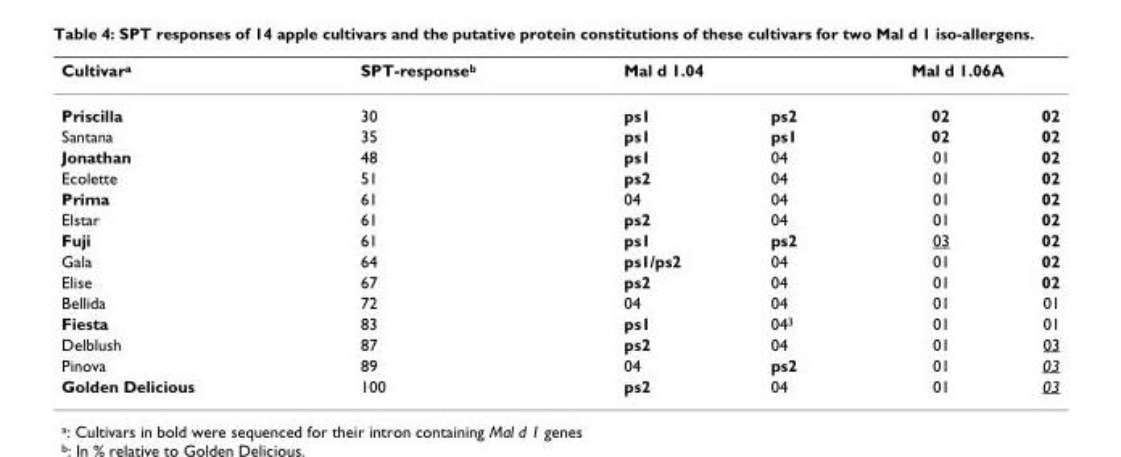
<table><thead><tr><td rowspan="2">Cultivar<sup>a</sup> Priscilla</td><td rowspan="2">SPT-response<sup>b</sup> 30</td><td colspan="2">Mal d 1.04</td><td colspan="2">Mal d 1.06A</td></tr><tr><td>ps1</td><td>ps2</td><td>02</td><td>02</td></tr></thead><tbody><tr><td>Santana</td><td>35</td><td>ps1</td><td>ps1</td><td>02</td><td>02</td></tr><tr><td>Jonathan</td><td>48</td><td>ps1</td><td>04</td><td>01</td><td>02</td></tr><tr><td>Ecolette</td><td>51</td><td>ps2</td><td>04</td><td>01</td><td>02</td></tr><tr><td>Prima</td><td>61</td><td>04</td><td>04</td><td>01</td><td>02</td></tr><tr><td>Elstar</td><td>61</td><td>ps2</td><td>04</td><td>01</td><td>02</td></tr><tr><td>Fuji</td><td>61</td><td>ps1</td><td>ps2</td><td>03</td><td>02</td></tr><tr><td>Gala</td><td>64</td><td>ps1/ps2</td><td>04</td><td>01</td><td>02</td></tr><tr><td>Elise</td><td>67</td><td>ps2</td><td>04</td><td>01</td><td>02</td></tr><tr><td>Bellida</td><td>72</td><td>04</td><td>04</td><td>01</td><td>01</td></tr><tr><td>Fiesta</td><td>83</td><td>ps1</td><td>04<sup>3</sup></td><td>01</td><td>01</td></tr><tr><td>Delblush</td><td>87</td><td>ps2</td><td>04</td><td>01</td><td>03</td></tr><tr><td>Pinova</td><td>89</td><td>04</td><td>ps2</td><td>01</td><td>03</td></tr><tr><td>Golden Delicious</td><td>100</td><td>ps2</td><td>04</td><td>01</td><td>03</td></tr></tbody></table>